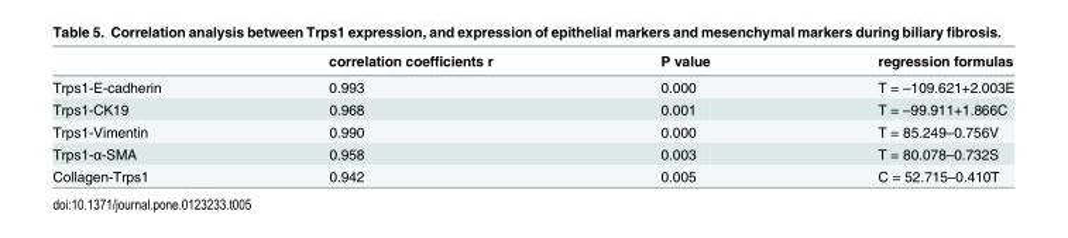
<table><thead><tr><td></td><td>correlation coefficients r</td><td>P value</td><td>regression formulas</td></tr></thead><tbody><tr><td>Trps1-E-cadherin</td><td>0.993</td><td>0.000</td><td>T = –109.621+2.003E</td></tr><tr><td>Trps1-CK19</td><td>0.968</td><td>0.001</td><td>T = –99.911+1.866C</td></tr><tr><td>Trps1-Vimentin</td><td>0.990</td><td>0.000</td><td>T = 85.249–0.756V</td></tr><tr><td>Trps1-α-SMA</td><td>0.958</td><td>0.003</td><td>T = 80.078–0.732S</td></tr><tr><td>Collagen-Trps1</td><td>0.942</td><td>0.005</td><td>C = 52.715–0.410T</td></tr></tbody></table>